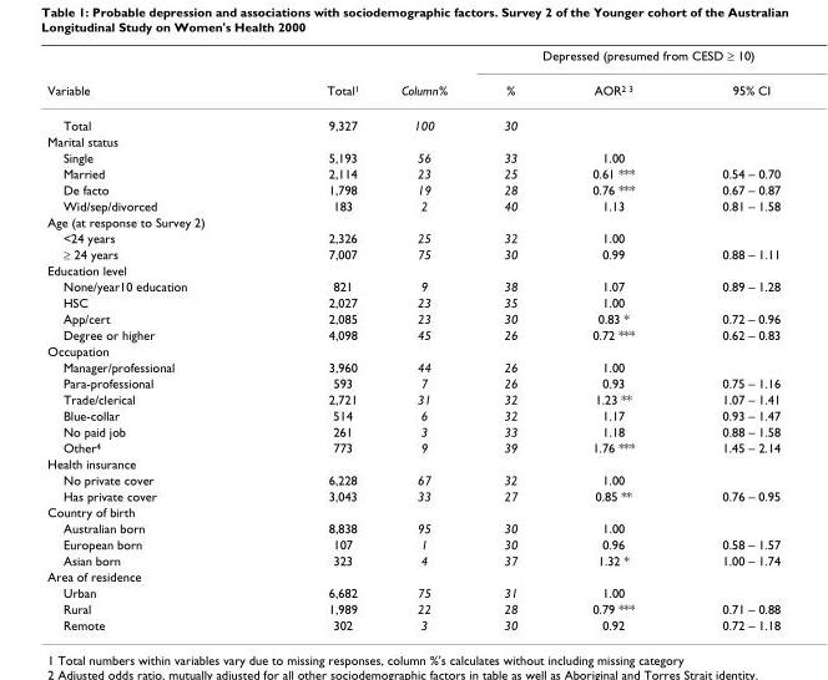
<table><thead><tr><td rowspan="2">Variable</td><td rowspan="2">Total<sup>1</sup></td><td rowspan="2">Column%</td><td colspan="3">Depressed (presumed from CESD ≥ 10)</td></tr><tr><td>%</td><td>AOR<sup>2 3</sup></td><td>95% CI</td></tr></thead><tbody><tr><td>Total</td><td>9,327</td><td>100</td><td>30</td><td></td><td></td></tr><tr><td colspan="6">Marital status</td></tr><tr><td>Single</td><td>5,193</td><td>56</td><td>33</td><td>1.00</td><td></td></tr><tr><td>Married</td><td>2,114</td><td>23</td><td>25</td><td>0.61 ***</td><td>0.54 – 0.70</td></tr><tr><td>De facto</td><td>1,798</td><td>19</td><td>28</td><td>0.76 ***</td><td>0.67 – 0.87</td></tr><tr><td>Wid/sep/divorced</td><td>183</td><td>2</td><td>40</td><td>1.13</td><td>0.81 – 1.58</td></tr><tr><td colspan="6">Age (at response to Survey 2)</td></tr><tr><td>&lt;24 years</td><td>2,326</td><td>25</td><td>32</td><td>1.00</td><td></td></tr><tr><td>≥ 24 years</td><td>7,007</td><td>75</td><td>30</td><td>0.99</td><td>0.88 – 1.11</td></tr><tr><td colspan="6">Education level</td></tr><tr><td>None/year10 education</td><td>821</td><td>9</td><td>38</td><td>1.07</td><td>0.89 – 1.28</td></tr><tr><td>HSC</td><td>2,027</td><td>23</td><td>35</td><td>1.00</td><td></td></tr><tr><td>App/cert</td><td>2,085</td><td>23</td><td>30</td><td>0.83 *</td><td>0.72 – 0.96</td></tr><tr><td>Degree or higher</td><td>4,098</td><td>45</td><td>26</td><td>0.72 ***</td><td>0.62 – 0.83</td></tr><tr><td colspan="6">Occupation</td></tr><tr><td>Manager/professional</td><td>3,960</td><td>44</td><td>26</td><td>1.00</td><td></td></tr><tr><td>Para-professional</td><td>593</td><td>7</td><td>26</td><td>0.93</td><td>0.75 – 1.16</td></tr><tr><td>Trade/clerical</td><td>2,721</td><td>31</td><td>32</td><td>1.23 **</td><td>1.07 – 1.41</td></tr><tr><td>Blue-collar</td><td>514</td><td>6</td><td>32</td><td>1.17</td><td>0.93 – 1.47</td></tr><tr><td>No paid job</td><td>261</td><td>3</td><td>33</td><td>1.18</td><td>0.88 – 1.58</td></tr><tr><td>Other<sup>4</sup></td><td>773</td><td>9</td><td>39</td><td>1.76 ***</td><td>1.45 – 2.14</td></tr><tr><td colspan="6">Health insurance</td></tr><tr><td>No private cover</td><td>6,228</td><td>67</td><td>32</td><td>1.00</td><td></td></tr><tr><td>Has private cover</td><td>3,043</td><td>33</td><td>27</td><td>0.85 **</td><td>0.76 – 0.95</td></tr><tr><td colspan="6">Country of birth</td></tr><tr><td>Australian born</td><td>8,838</td><td>95</td><td>30</td><td>1.00</td><td></td></tr><tr><td>European born</td><td>107</td><td>1</td><td>30</td><td>0.96</td><td>0.58 – 1.57</td></tr><tr><td>Asian born</td><td>323</td><td>4</td><td>37</td><td>1.32 *</td><td>1.00 – 1.74</td></tr><tr><td colspan="6">Area of residence</td></tr><tr><td>Urban</td><td>6,682</td><td>75</td><td>31</td><td>1.00</td><td></td></tr><tr><td>Rural</td><td>1,989</td><td>22</td><td>28</td><td>0.79 ***</td><td>0.71 – 0.88</td></tr><tr><td>Remote</td><td>302</td><td>3</td><td>30</td><td>0.92</td><td>0.72 – 1.18</td></tr></tbody></table>